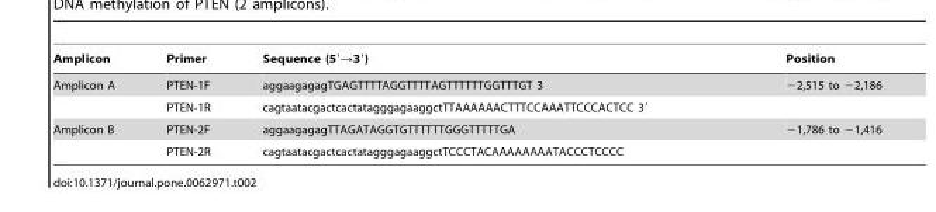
<table><thead><tr><td>Amplicon</td><td>Primer</td><td>Sequence (5′→3′)</td><td>Position</td></tr></thead><tbody><tr><td rowspan="2">Amplicon A</td><td>PTEN-1F</td><td>aggaagagagTGAGTTTTAGGTTTTAGTTTTTTGGTTTGT 3</td><td>−2,515 to −2,186</td></tr><tr><td>PTEN-1R</td><td>cagtaatacgactcactatagggagaaggctTTAAAAAACTTTCCAAATTCCCACTCC 3′</td><td></td></tr><tr><td rowspan="2">Amplicon B</td><td>PTEN-2F</td><td>aggaagagagTTAGATAGGTGTTTTTTGGGTTTTTGA</td><td>−1,786 to −1,416</td></tr><tr><td>PTEN-2R</td><td>cagtaatacgactcactatagggagaaggctTCCCTACAAAAAAAATACCCTCCCC</td><td></td></tr></tbody></table>